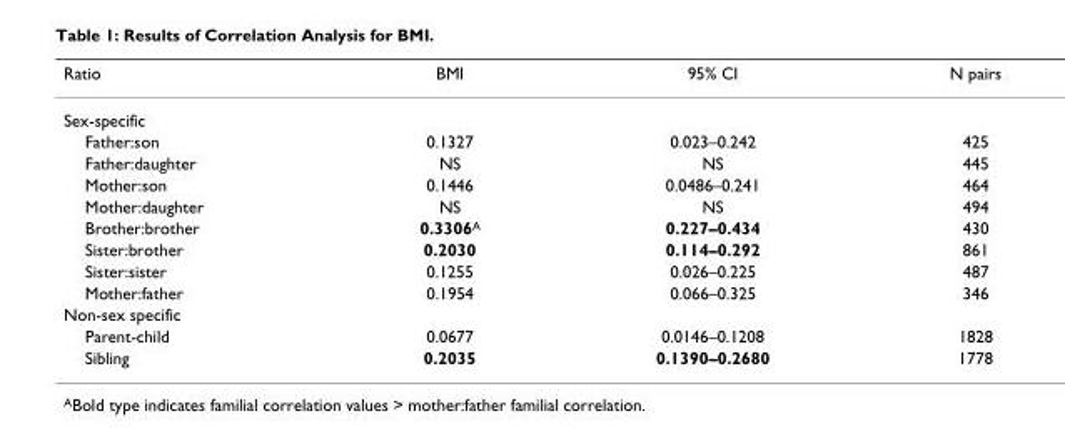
<table><thead><tr><td>Ratio</td><td>BMI</td><td>95% CI</td><td>N pairs</td></tr></thead><tbody><tr><td colspan="4">Sex-specific</td></tr><tr><td>Father:son</td><td>0.1327</td><td>0.023–0.242</td><td>425</td></tr><tr><td>Father:daughter</td><td>NS</td><td>NS</td><td>445</td></tr><tr><td>Mother:son</td><td>0.1446</td><td>0.0486–0.241</td><td>464</td></tr><tr><td>Mother:daughter</td><td>NS</td><td>NS</td><td>494</td></tr><tr><td>Brother:brother</td><td>0.3306A</td><td>0.227–0.434</td><td>430</td></tr><tr><td>Sister:brother</td><td>0.2030</td><td>0.114–0.292</td><td>861</td></tr><tr><td>Sister:sister</td><td>0.1255</td><td>0.026–0.225</td><td>487</td></tr><tr><td>Mother:father</td><td>0.1954</td><td>0.066–0.325</td><td>346</td></tr><tr><td colspan="4">Non-sex specific</td></tr><tr><td>Parent-child</td><td>0.0677</td><td>0.0146–0.1208</td><td>1828</td></tr><tr><td>Sibling</td><td>0.2035</td><td>0.1390–0.2680</td><td>1778</td></tr></tbody></table>